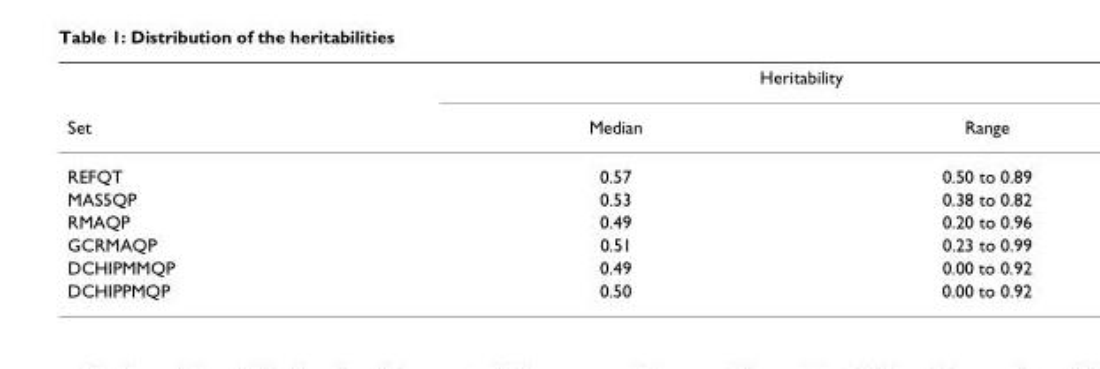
<table><thead><tr><td rowspan="2">Set</td><td colspan="2">Heritability</td></tr><tr><td>Median</td><td>Range</td></tr></thead><tbody><tr><td>REFQT</td><td>0.57</td><td>0.50 to 0.89</td></tr><tr><td>MAS5QP</td><td>0.53</td><td>0.38 to 0.82</td></tr><tr><td>RMAQP</td><td>0.49</td><td>0.20 to 0.96</td></tr><tr><td>GCRMAQP</td><td>0.51</td><td>0.23 to 0.99</td></tr><tr><td>DCHIPMMQP</td><td>0.49</td><td>0.00 to 0.92</td></tr><tr><td>DCHIPPMQP</td><td>0.50</td><td>0.00 to 0.92</td></tr></tbody></table>